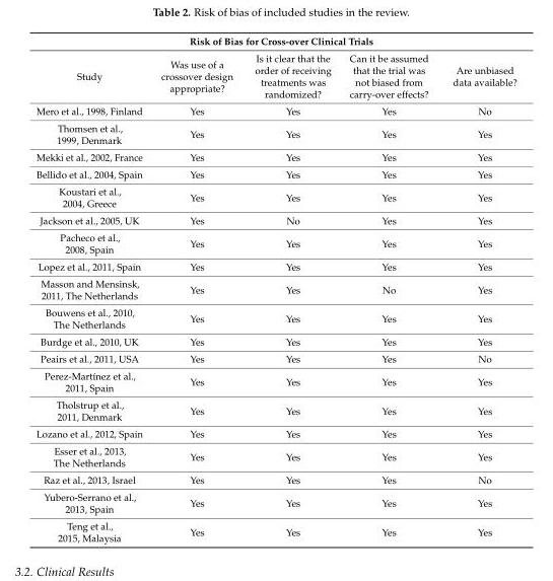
<table><thead><tr><td colspan="5">Risk of Bias for Cross-over Clinical Trials</td></tr><tr><td>Study</td><td>Was use of a crossover design appropriate?</td><td>Is it clear that the order of receiving treatments was randomized?</td><td>Can it be assumed that the trial was not biased from carry-over effects?</td><td>Are unbiased data available?</td></tr></thead><tbody><tr><td>Mero et al., 1998, Finland</td><td>Yes</td><td>Yes</td><td>Yes</td><td>No</td></tr><tr><td>Thomsen et al., 1999, Denmark</td><td>Yes</td><td>Yes</td><td>Yes</td><td>Yes</td></tr><tr><td>Mekki et al., 2002, France</td><td>Yes</td><td>Yes</td><td>Yes</td><td>Yes</td></tr><tr><td>Bellido et al., 2004, Spain</td><td>Yes</td><td>Yes</td><td>Yes</td><td>Yes</td></tr><tr><td>Koustari et al., 2004, Greece</td><td>Yes</td><td>Yes</td><td>Yes</td><td>Yes</td></tr><tr><td>Jackson et al., 2005, UK</td><td>Yes</td><td>No</td><td>Yes</td><td>Yes</td></tr><tr><td>Pacheco et al., 2008, Spain</td><td>Yes</td><td>Yes</td><td>Yes</td><td>Yes</td></tr><tr><td>Lopez et al., 2011, Spain</td><td>Yes</td><td>Yes</td><td>Yes</td><td>Yes</td></tr><tr><td>Masson and Mensinsk, 2011, The Netherlands</td><td>Yes</td><td>Yes</td><td>No</td><td>Yes</td></tr><tr><td>Bouwens et al., 2010, The Netherlands</td><td>Yes</td><td>Yes</td><td>Yes</td><td>Yes</td></tr><tr><td>Burdge et al., 2010, UK</td><td>Yes</td><td>Yes</td><td>Yes</td><td>Yes</td></tr><tr><td>Peairs et al., 2011, USA</td><td>Yes</td><td>Yes</td><td>Yes</td><td>No</td></tr><tr><td>Perez-Martínez et al., 2011, Spain</td><td>Yes</td><td>Yes</td><td>Yes</td><td>Yes</td></tr><tr><td>Tholstrup et al., 2011, Denmark</td><td>Yes</td><td>Yes</td><td>Yes</td><td>Yes</td></tr><tr><td>Lozano et al., 2012, Spain</td><td>Yes</td><td>Yes</td><td>Yes</td><td>Yes</td></tr><tr><td>Esser et al., 2013, The Netherlands</td><td>Yes</td><td>Yes</td><td>Yes</td><td>Yes</td></tr><tr><td>Raz et al., 2013, Israel</td><td>Yes</td><td>Yes</td><td>Yes</td><td>No</td></tr><tr><td>Yubero-Serrano et al., 2013, Spain</td><td>Yes</td><td>Yes</td><td>Yes</td><td>Yes</td></tr><tr><td>Teng et al., 2015, Malaysia</td><td>Yes</td><td>Yes</td><td>Yes</td><td>Yes</td></tr></tbody></table>